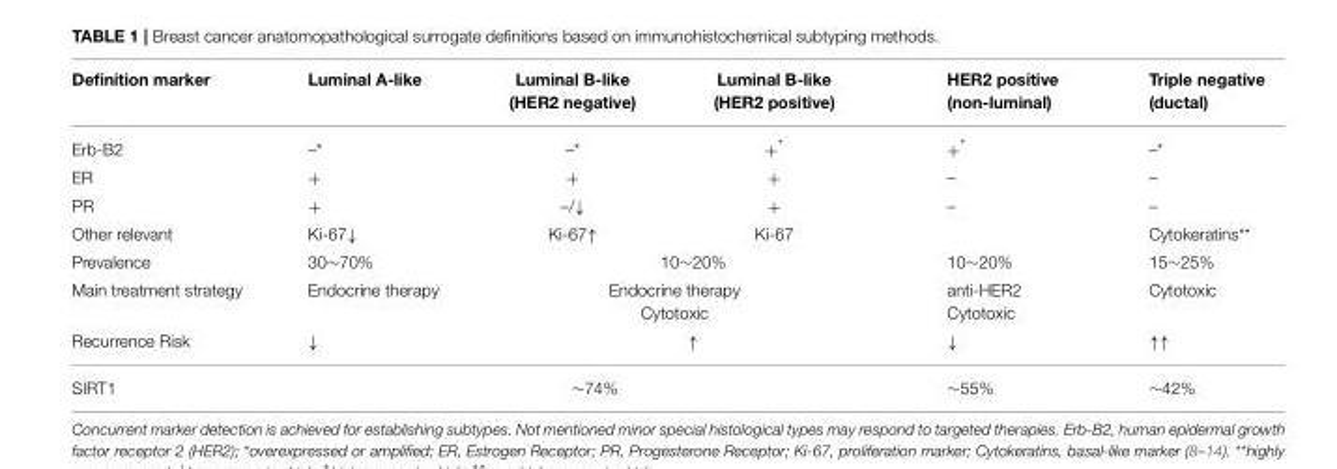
<table><thead><tr><td>Definition marker</td><td>Luminal A-like</td><td>Luminal B-like (HER2 negative)</td><td>Luminal B-like (HER2 positive)</td><td>HER2 positive (non-luminal)</td><td>Triple negative (ductal)</td></tr></thead><tbody><tr><td>Erb-B2</td><td>–*</td><td>–*</td><td>+*</td><td>+*</td><td>–*</td></tr><tr><td>ER</td><td>+</td><td>+</td><td>+</td><td>–</td><td>–</td></tr><tr><td>PR</td><td>+</td><td>–/↓</td><td>+</td><td>–</td><td>–</td></tr><tr><td>Other relevant</td><td>Ki-67↓</td><td>Ki-67↑</td><td>Ki-67</td><td></td><td>Cytokeratins**</td></tr><tr><td>Prevalence</td><td>30∼70%</td><td colspan="2">10∼20%</td><td>10∼20%</td><td>15∼25%</td></tr><tr><td>Main treatment strategy</td><td>Endocrine therapy</td><td colspan="2">Endocrine therapy Cytotoxic</td><td>anti-HER2 Cytotoxic</td><td>Cytotoxic</td></tr><tr><td>Recurrence Risk</td><td>↓</td><td colspan="2">↑</td><td>↓</td><td>↑↑</td></tr><tr><td>SIRT1</td><td colspan="3">∼74%</td><td>∼55%</td><td>∼42%</td></tr></tbody></table>